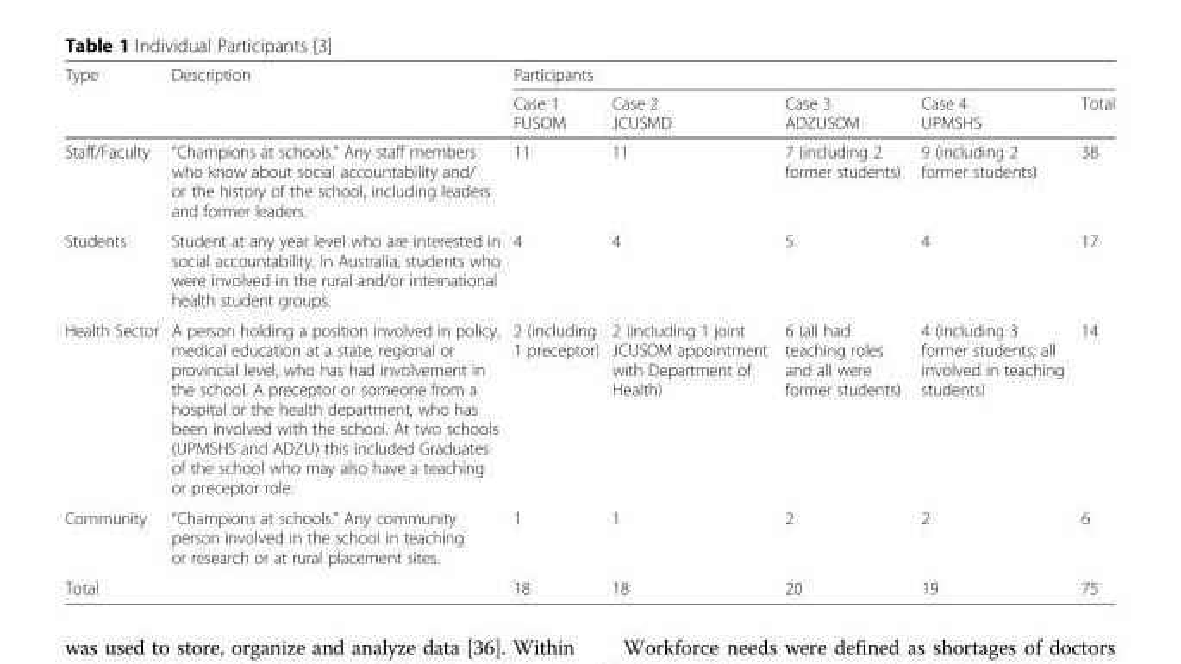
<table><thead><tr><td rowspan="2">Type</td><td rowspan="2">Description</td><td colspan="5">Participants</td></tr><tr><td>Case 1 FUSOM</td><td>Case 2 JCUSMD</td><td>Case 3 ADZUSOM</td><td>Case 4 UPMSHS</td><td>Total</td></tr></thead><tbody><tr><td>Staff/Faculty</td><td>“Champions at schools.” Any staff members who know about social accountability and/ or the history of the school, including leaders and former leaders.</td><td>11</td><td>11</td><td>7 (including 2 former students)</td><td>9 (including 2 former students)</td><td>38</td></tr><tr><td>Students</td><td>Student at any year level who are interested in social accountability. In Australia, students who were involved in the rural and/or international health student groups.</td><td>4</td><td>4</td><td>5</td><td>4</td><td>17</td></tr><tr><td>Health Sector</td><td>A person holding a position involved in policy, medical education at a state, regional or provincial level, who has had involvement in the school. A preceptor or someone from a hospital or the health department, who has been involved with the school. At two schools (UPMSHS and ADZU) this included Graduates of the school who may also have a teaching or preceptor role.</td><td>2 (including 1 preceptor)</td><td>2 (including 1 joint JCUSOM appointment with Department of Health)</td><td>6 (all had teaching roles and all were former students)</td><td>4 (including 3 former students; all involved in teaching students)</td><td>14</td></tr><tr><td>Community</td><td>“Champions at schools.” Any community person involved in the school in teaching or research or at rural placement sites.</td><td>1</td><td>1</td><td>2</td><td>2</td><td>6</td></tr><tr><td>Total</td><td></td><td>18</td><td>18</td><td>20</td><td>19</td><td>75</td></tr></tbody></table>